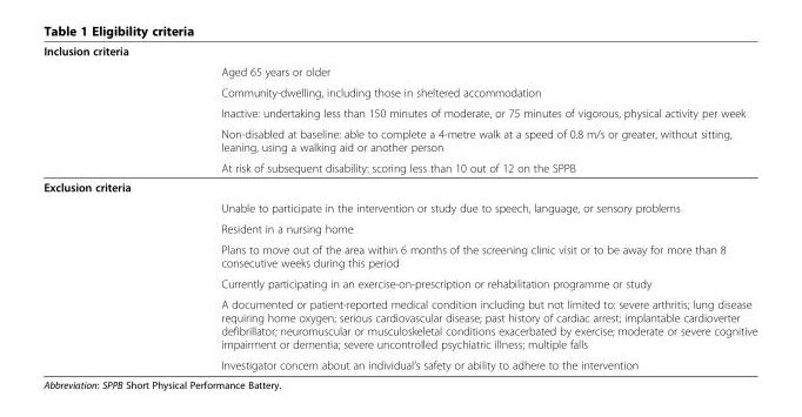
<table><tbody><tr><td colspan="2">Inclusion criteria</td></tr><tr><td></td><td>Aged 65 years or older</td></tr><tr><td></td><td>Community-dwelling, including those in sheltered accommodation</td></tr><tr><td></td><td>Inactive: undertaking less than 150 minutes of moderate, or 75 minutes of vigorous, physical activity per week</td></tr><tr><td></td><td>Non-disabled at baseline: able to complete a 4-metre walk at a speed of 0.8 m/s or greater, without sitting, leaning, using a walking aid or another person</td></tr><tr><td></td><td>At risk of subsequent disability: scoring less than 10 out of 12 on the SPPB</td></tr><tr><td colspan="2">Exclusion criteria</td></tr><tr><td></td><td>Unable to participate in the intervention or study due to speech, language, or sensory problems</td></tr><tr><td></td><td>Resident in a nursing home</td></tr><tr><td></td><td>Plans to move out of the area within 6 months of the screening clinic visit or to be away for more than 8 consecutive weeks during this period</td></tr><tr><td></td><td>Currently participating in an exercise-on-prescription or rehabilitation programme or study</td></tr><tr><td></td><td>A documented or patient-reported medical condition including but not limited to: severe arthritis; lung disease requiring home oxygen; serious cardiovascular disease; past history of cardiac arrest; implantable cardioverter defibrillator; neuromuscular or musculoskeletal conditions exacerbated by exercise; moderate or severe cognitive impairment or dementia; severe uncontrolled psychiatric illness; multiple falls</td></tr><tr><td></td><td>Investigator concern about an individual’s safety or ability to adhere to the intervention</td></tr></tbody></table>